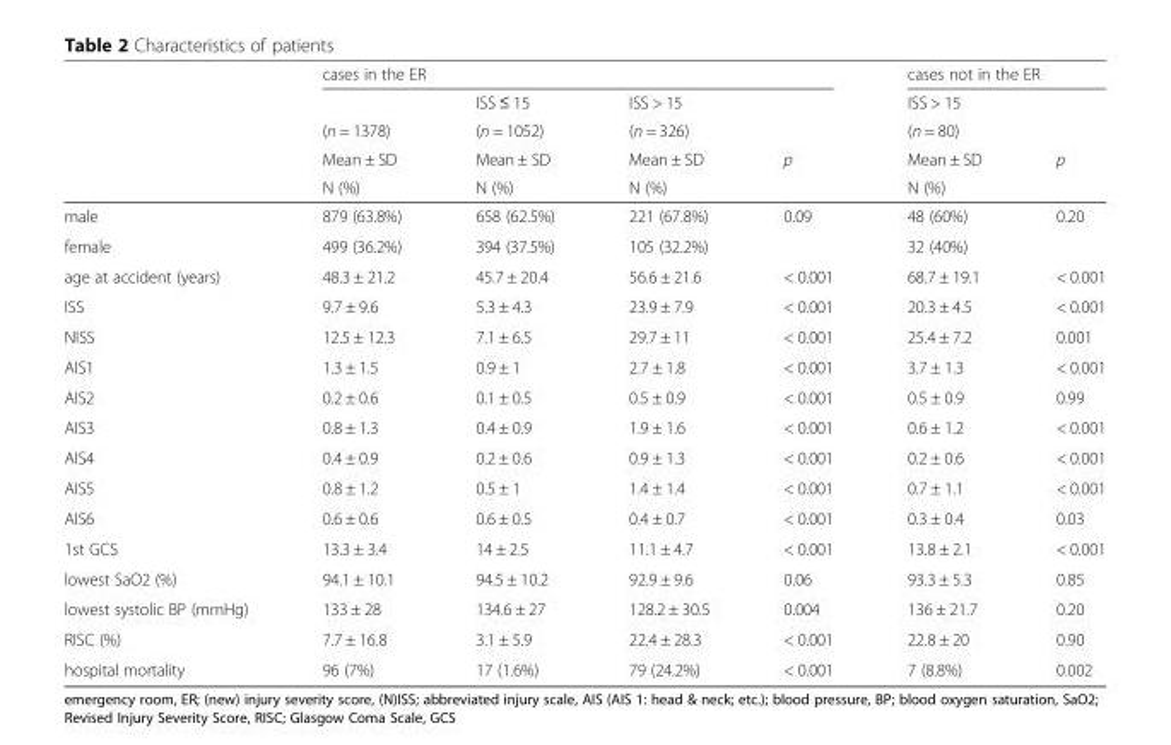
<table><thead><tr><td rowspan="5"></td><td colspan="4">cases in the ER</td><td colspan="2">cases not in the ER</td></tr><tr><td rowspan="4">(n = 1378) Mean ± SD N (%)</td><td rowspan="4">ISS ≤ 15 (n = 1052) Mean ± SD N (%)</td><td rowspan="4">ISS &gt; 15 (n = 326) Mean ± SD N (%)</td><td rowspan="4">p</td><td rowspan="4">ISS &gt; 15 (n = 80) Mean ± SD N (%)</td><td rowspan="4">p</td></tr><tr></tr><tr></tr><tr></tr></thead><tbody><tr><td>male</td><td>879 (63.8%)</td><td>658 (62.5%)</td><td>221 (67.8%)</td><td rowspan="2">0.09</td><td>48 (60%)</td><td rowspan="2">0.20</td></tr><tr><td>female</td><td>499 (36.2%)</td><td>394 (37.5%)</td><td>105 (32.2%)</td><td>32 (40%)</td></tr><tr><td>age at accident (years)</td><td>48.3 ± 21.2</td><td>45.7 ± 20.4</td><td>56.6 ± 21.6</td><td>&lt; 0.001</td><td>68.7 ± 19.1</td><td>&lt; 0.001</td></tr><tr><td>ISS</td><td>9.7 ± 9.6</td><td>5.3 ± 4.3</td><td>23.9 ± 7.9</td><td>&lt; 0.001</td><td>20.3 ± 4.5</td><td>&lt; 0.001</td></tr><tr><td>NISS</td><td>12.5 ± 12.3</td><td>7.1 ± 6.5</td><td>29.7 ± 11</td><td>&lt; 0.001</td><td>25.4 ± 7.2</td><td>0.001</td></tr><tr><td>AIS1</td><td>1.3 ± 1.5</td><td>0.9 ± 1</td><td>2.7 ± 1.8</td><td>&lt; 0.001</td><td>3.7 ± 1.3</td><td>&lt; 0.001</td></tr><tr><td>AIS2</td><td>0.2 ± 0.6</td><td>0.1 ± 0.5</td><td>0.5 ± 0.9</td><td>&lt; 0.001</td><td>0.5 ± 0.9</td><td>0.99</td></tr><tr><td>AIS3</td><td>0.8 ± 1.3</td><td>0.4 ± 0.9</td><td>1.9 ± 1.6</td><td>&lt; 0.001</td><td>0.6 ± 1.2</td><td>&lt; 0.001</td></tr><tr><td>AIS4</td><td>0.4 ± 0.9</td><td>0.2 ± 0.6</td><td>0.9 ± 1.3</td><td>&lt; 0.001</td><td>0.2 ± 0.6</td><td>&lt; 0.001</td></tr><tr><td>AIS5</td><td>0.8 ± 1.2</td><td>0.5 ± 1</td><td>1.4 ± 1.4</td><td>&lt; 0.001</td><td>0.7 ± 1.1</td><td>&lt; 0.001</td></tr><tr><td>AIS6</td><td>0.6 ± 0.6</td><td>0.6 ± 0.5</td><td>0.4 ± 0.7</td><td>&lt; 0.001</td><td>0.3 ± 0.4</td><td>0.03</td></tr><tr><td>1st GCS</td><td>13.3 ± 3.4</td><td>14 ± 2.5</td><td>11.1 ± 4.7</td><td>&lt; 0.001</td><td>13.8 ± 2.1</td><td>&lt; 0.001</td></tr><tr><td>lowest SaO2 (%)</td><td>94.1 ± 10.1</td><td>94.5 ± 10.2</td><td>92.9 ± 9.6</td><td>0.06</td><td>93.3 ± 5.3</td><td>0.85</td></tr><tr><td>lowest systolic BP (mmHg)</td><td>133 ± 28</td><td>134.6 ± 27</td><td>128.2 ± 30.5</td><td>0.004</td><td>136 ± 21.7</td><td>0.20</td></tr><tr><td>RISC (%)</td><td>7.7 ± 16.8</td><td>3.1 ± 5.9</td><td>22.4 ± 28.3</td><td>&lt; 0.001</td><td>22.8 ± 20</td><td>0.90</td></tr><tr><td>hospital mortality</td><td>96 (7%)</td><td>17 (1.6%)</td><td>79 (24.2%)</td><td>&lt; 0.001</td><td>7 (8.8%)</td><td>0.002</td></tr></tbody></table>